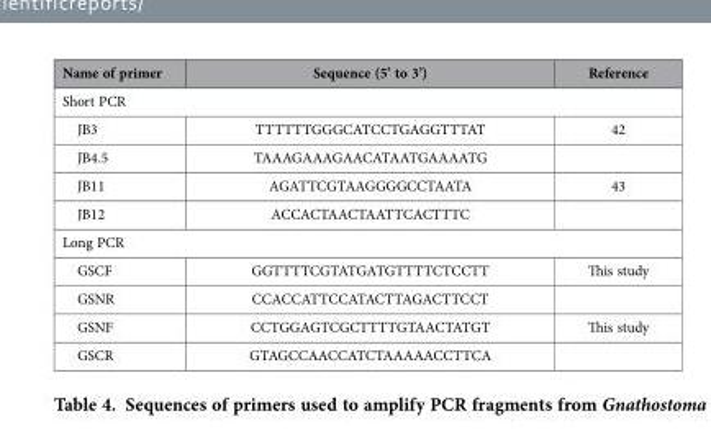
<table><thead><tr><td>Name of primer</td><td>Sequence (5’ to 3’)</td><td>Reference</td></tr></thead><tbody><tr><td colspan="3">Short PCR</td></tr><tr><td>JB3</td><td>TTTTTTGGGCATCCTGAGGTTTAT</td><td>42</td></tr><tr><td>JB4.5</td><td>TAAAGAAAGAACATAATGAAAATG</td><td></td></tr><tr><td>JB11</td><td>AGATTCGTAAGGGGCCTAATA</td><td>43</td></tr><tr><td>JB12</td><td>ACCACTAACTAATTCACTTTC</td><td></td></tr><tr><td colspan="3">Long PCR</td></tr><tr><td>GSCF</td><td>GGTTTTCGTATGATGTTTTCTCCTT</td><td>This study</td></tr><tr><td>GSNR</td><td>CCACCATTCCATACTTAGACTTCCT</td><td></td></tr><tr><td>GSNF</td><td>CCTGGAGTCGCTTTTGTAACTATGT</td><td>This study</td></tr><tr><td>GSCR</td><td>GTAGCCAACCATCTAAAAACCTTCA</td><td></td></tr></tbody></table>